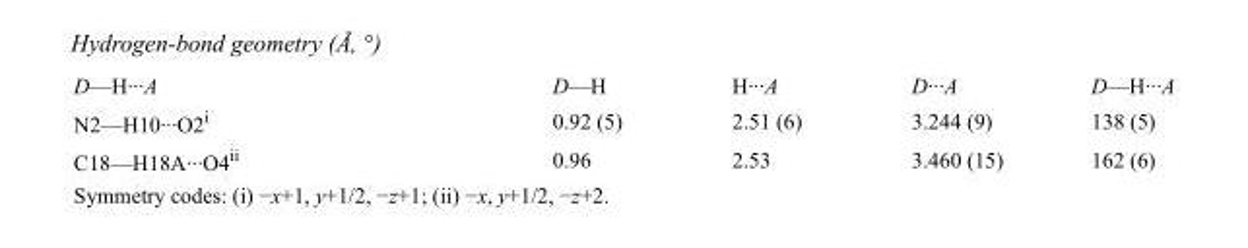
<table><tbody><tr><td>D—H···A</td><td>D—H</td><td>H···A</td><td>D···A</td><td>D—H···A</td></tr><tr><td>N2—H10···O2<sup>i</sup></td><td>0.92 (5)</td><td>2.51 (6)</td><td>3.244 (9)</td><td>138 (5)</td></tr><tr><td>C18—H18A···O4<sup>ii</sup></td><td>0.96</td><td>2.53</td><td>3.460 (15)</td><td>162 (6)</td></tr></tbody></table>